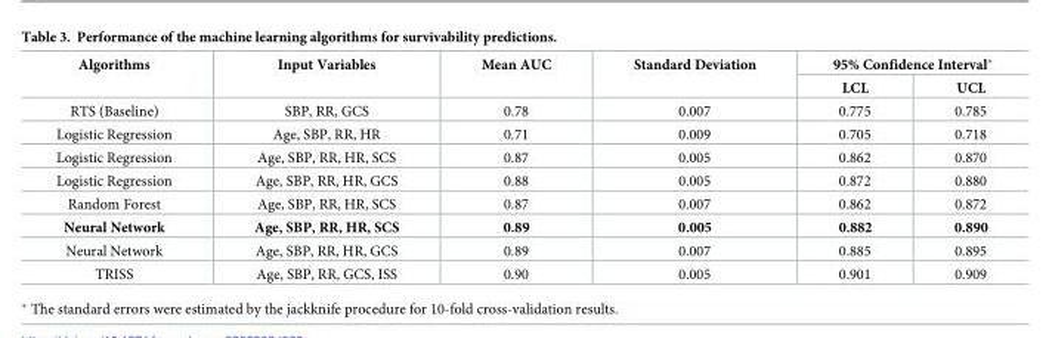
<table><thead><tr><td rowspan="2">Algorithms</td><td rowspan="2">Input Variables</td><td rowspan="2">Mean AUC</td><td rowspan="2">Standard Deviation</td><td colspan="2">95% Confidence Interval*</td></tr><tr><td>LCL</td><td>UCL</td></tr></thead><tbody><tr><td>RTS (Baseline)</td><td>SBP, RR, GCS</td><td>0.78</td><td>0.007</td><td>0.775</td><td>0.785</td></tr><tr><td>Logistic Regression</td><td>Age, SBP, RR, HR</td><td>0.71</td><td>0.009</td><td>0.705</td><td>0.718</td></tr><tr><td>Logistic Regression</td><td>Age, SBP, RR, HR, SCS</td><td>0.87</td><td>0.005</td><td>0.862</td><td>0.870</td></tr><tr><td>Logistic Regression</td><td>Age, SBP, RR, HR, GCS</td><td>0.88</td><td>0.005</td><td>0.872</td><td>0.880</td></tr><tr><td>Random Forest</td><td>Age, SBP, RR, HR, SCS</td><td>0.87</td><td>0.007</td><td>0.862</td><td>0.872</td></tr><tr><td>Neural Network</td><td>Age, SBP, RR, HR, SCS</td><td>0.89</td><td>0.005</td><td>0.882</td><td>0.890</td></tr><tr><td>Neural Network</td><td>Age, SBP, RR, HR, GCS</td><td>0.89</td><td>0.007</td><td>0.885</td><td>0.895</td></tr><tr><td>TRISS</td><td>Age, SBP, RR, GCS, ISS</td><td>0.90</td><td>0.005</td><td>0.901</td><td>0.909</td></tr></tbody></table>